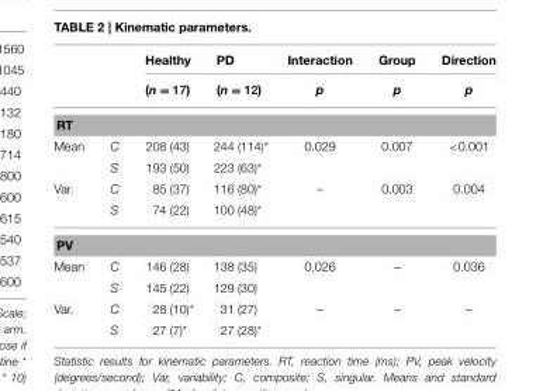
<table><thead><tr><td rowspan="2"></td><td rowspan="2"></td><td rowspan="2">Healthy (n = 17)</td><td rowspan="2">PD (n = 12)</td><td rowspan="2">Interaction p</td><td rowspan="2">Group p</td><td rowspan="2">Direction p</td></tr><tr></tr></thead><tbody><tr><td colspan="7">RT</td></tr><tr><td rowspan="2">Mean</td><td>C</td><td>208 (43)</td><td>244 (114)*</td><td>0.029</td><td>0.007</td><td>&lt;0.001</td></tr><tr><td>S</td><td>193 (50)</td><td>223 (63)*</td><td></td><td colspan="2"></td></tr><tr><td rowspan="2">Var.</td><td>C</td><td>85 (37)</td><td>116 (80)*</td><td>–</td><td>0.003</td><td>0.004</td></tr><tr><td>S</td><td>74 (22)</td><td>100 (48)*</td><td></td><td colspan="2"></td></tr><tr><td colspan="7">PV</td></tr><tr><td rowspan="2">Mean</td><td>C</td><td>146 (28)</td><td>138 (35)</td><td>0.026</td><td>–</td><td>0.036</td></tr><tr><td>S</td><td>145 (22)</td><td>129 (30)</td><td></td><td colspan="2"></td></tr><tr><td rowspan="2">Var.</td><td>C</td><td>28 (10)*</td><td>31 (27)</td><td>–</td><td>–</td><td>–</td></tr><tr><td>S</td><td>27 (7)*</td><td>27 (28)*</td><td></td><td></td><td></td></tr></tbody></table>